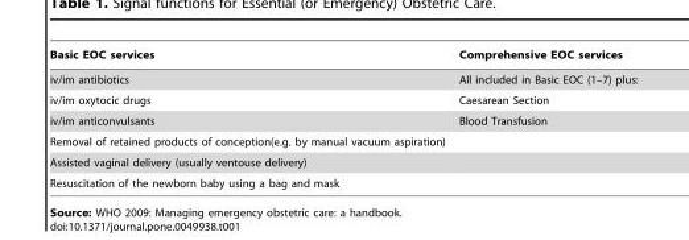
<table><thead><tr><td>Basic EOC services</td><td>Comprehensive EOC services</td></tr></thead><tbody><tr><td>iv/im antibiotics</td><td>All included in Basic EOC (1–7) plus:</td></tr><tr><td>iv/im oxytocic drugs</td><td>Caesarean Section</td></tr><tr><td>iv/im anticonvulsants</td><td>Blood Transfusion</td></tr><tr><td colspan="2">Removal of retained products of conception(e.g. by manual vacuum aspiration)</td></tr><tr><td colspan="2">Assisted vaginal delivery (usually ventouse delivery)</td></tr><tr><td>Resuscitation of the newborn baby using a bag and mask</td><td></td></tr></tbody></table>